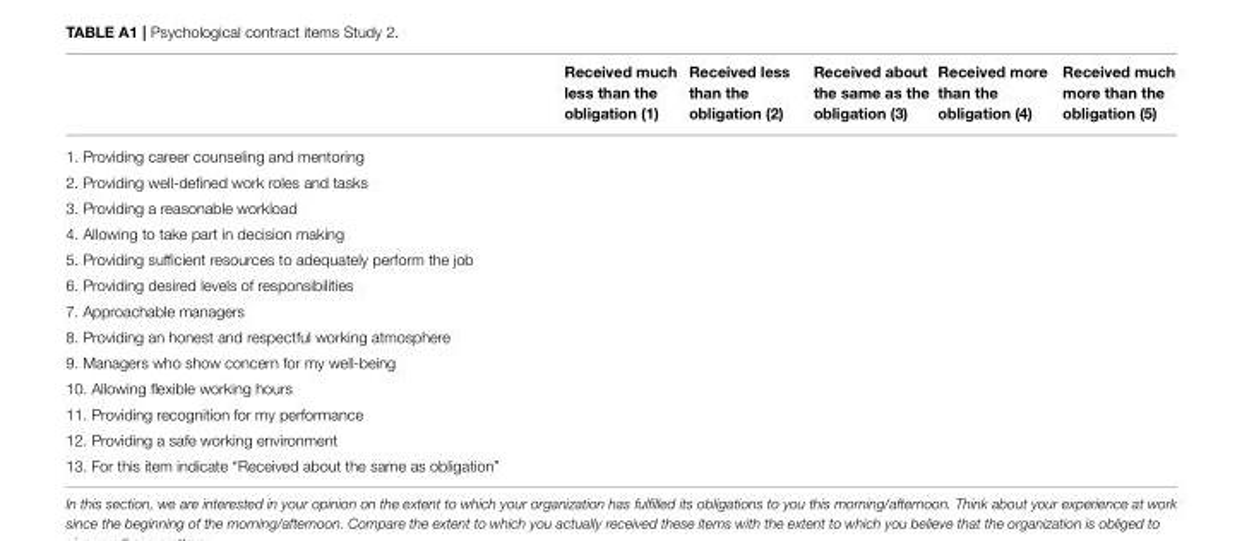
<table><thead><tr><td></td><td>Received much less than the obligation (1)</td><td>Received less than the obligation (2)</td><td>Received about the same as the obligation (3)</td><td>Received more than the obligation (4)</td><td>Received much more than the obligation (5)</td></tr></thead><tbody><tr><td colspan="6">1. Providing career counseling and mentoring</td></tr><tr><td colspan="6">2. Providing well-defined work roles and tasks</td></tr><tr><td colspan="6">3. Providing a reasonable workload</td></tr><tr><td colspan="6">4. Allowing to take part in decision making</td></tr><tr><td colspan="6">5. Providing sufficient resources to adequately perform the job</td></tr><tr><td colspan="6">6. Providing desired levels of responsibilities</td></tr><tr><td colspan="6">7. Approachable managers</td></tr><tr><td colspan="6">8. Providing an honest and respectful working atmosphere</td></tr><tr><td colspan="6">9. Managers who show concern for my well-being</td></tr><tr><td colspan="6">10. Allowing flexible working hours</td></tr><tr><td colspan="6">11. Providing recognition for my performance</td></tr><tr><td colspan="6">12. Providing a safe working environment</td></tr><tr><td>13. For this item indicate “Received about the same as obligation”</td><td></td><td></td><td></td><td></td><td></td></tr></tbody></table>